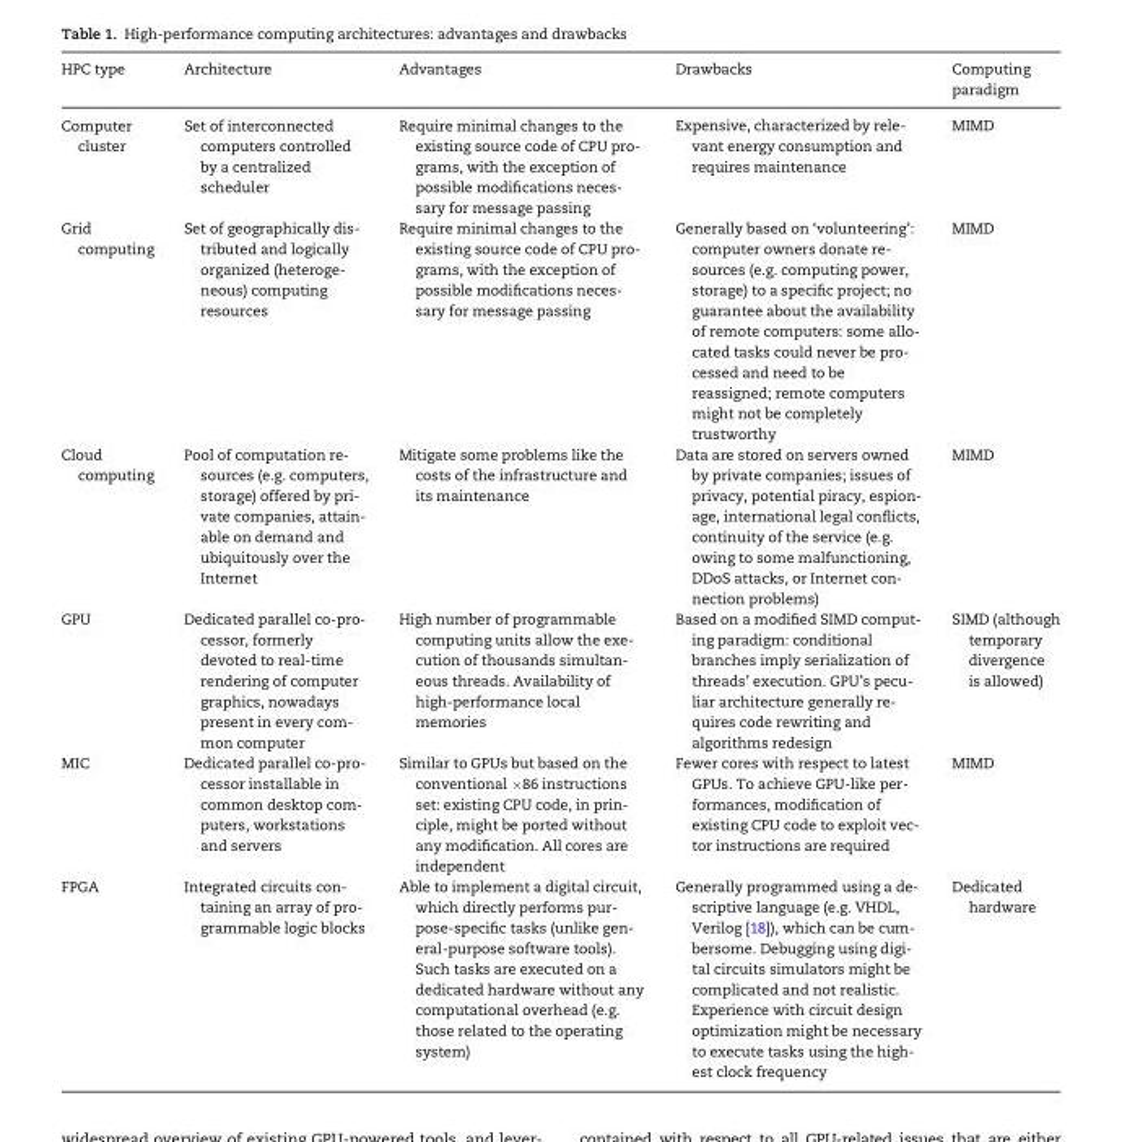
<table><thead><tr><td>HPC type</td><td>Architecture</td><td>Advantages</td><td>Drawbacks</td><td>Computing paradigm</td></tr></thead><tbody><tr><td>Computer cluster</td><td>Set of interconnected computers controlled by a centralized scheduler</td><td>Require minimal changes to the existing source code of CPU pro- grams, with the exception of possible modifications neces- sary for message passing</td><td>Expensive, characterized by rele- vant energy consumption and requires maintenance</td><td>MIMD</td></tr><tr><td>Grid computing</td><td>Set of geographically dis- tributed and logically organized (heteroge- neous) computing resources</td><td>Require minimal changes to the existing source code of CPU pro- grams, with the exception of possible modifications neces- sary for message passing</td><td>Generally based on ‘volunteering’: computer owners donate re- sources (e.g. computing power, storage) to a specific project; no guarantee about the availability of remote computers: some allo- cated tasks could never be pro- cessed and need to be reassigned; remote computers might not be completely trustworthy</td><td>MIMD</td></tr><tr><td>Cloud computing</td><td>Pool of computation re- sources (e.g. computers, storage) offered by pri- vate companies, attain- able on demand and ubiquitously over the Internet</td><td>Mitigate some problems like the costs of the infrastructure and its maintenance</td><td>Data are stored on servers owned by private companies; issues of privacy, potential piracy, espion- age, international legal conflicts, continuity of the service (e.g. owing to some malfunctioning, DDoS attacks, or Internet con- nection problems)</td><td>MIMD</td></tr><tr><td>GPU</td><td>Dedicated parallel co-pro- cessor, formerly devoted to real-time rendering of computer graphics, nowadays present in every com- mon computer</td><td>High number of programmable computing units allow the exe- cution of thousands simultan- eous threads. Availability of high-performance local memories</td><td>Based on a modified SIMD comput- ing paradigm: conditional branches imply serialization of threads’ execution. GPU’s pecu- liar architecture generally re- quires code rewriting and algorithms redesign</td><td>SIMD (although temporary divergence is allowed)</td></tr><tr><td>MIC</td><td>Dedicated parallel co-pro- cessor installable in common desktop com- puters, workstations and servers</td><td>Similar to GPUs but based on the conventional �86 instructions set: existing CPU code, in prin- ciple, might be ported without any modification. All cores are independent</td><td>Fewer cores with respect to latest GPUs. To achieve GPU-like per- formances, modification of existing CPU code to exploit vec- tor instructions are required</td><td>MIMD</td></tr><tr><td>FPGA</td><td>Integrated circuits con- taining an array of pro- grammable logic blocks</td><td>Able to implement a digital circuit, which directly performs pur- pose-specific tasks (unlike gen- eral-purpose software tools). Such tasks are executed on a dedicated hardware without any computational overhead (e.g. those related to the operating system)</td><td>Generally programmed using a de- scriptive language (e.g. VHDL, Verilog [18]), which can be cum- bersome. Debugging using digi- tal circuits simulators might be complicated and not realistic. Experience with circuit design optimization might be necessary to execute tasks using the high- est clock frequency</td><td>Dedicated hardware</td></tr></tbody></table>